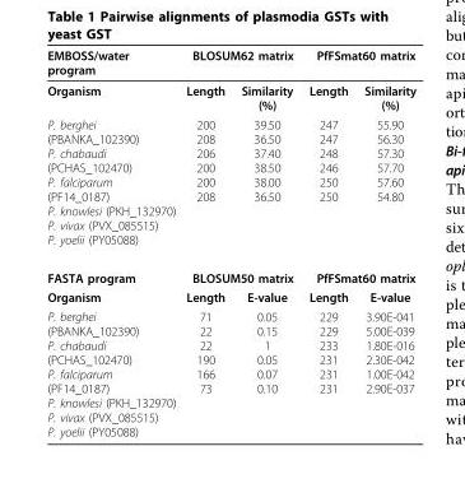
<table><thead><tr><td rowspan="2">EMBOSS/water program Organism</td><td colspan="2">BLOSUM62 matrix</td><td colspan="2">PfFSmat60 matrix</td></tr><tr><td>Length</td><td>Similarity (%)</td><td>Length</td><td>Similarity (%)</td></tr></thead><tbody><tr><td>P. berghei (PBANKA_102390) P. chabaudi (PCHAS_102470) P. falciparum (PF14_0187) P. knowlesi (PKH_132970) P. vivax (PVX_085515) P. yoelii (PY05088)</td><td>200 208 206 200 200 208</td><td>39.50 36.50 37.40 38.50 38.00 36.50</td><td>247 247 248 246 250 250</td><td>55.90 56.30 57.30 57.70 57.60 54.80</td></tr><tr><td>FASTA program</td><td colspan="2">BLOSUM50 matrix</td><td colspan="2">PfFSmat60 matrix</td></tr><tr><td>Organism</td><td>Length</td><td>E-value</td><td>Length</td><td>E-value</td></tr><tr><td>P. berghei (PBANKA_102390) P. chabaudi (PCHAS_102470) P. falciparum (PF14_0187) P. knowlesi (PKH_132970) P. vivax (PVX_085515) P. yoelii (PY05088)</td><td>71 22 22 190 166 73</td><td>0.05 0.15 1 0.05 0.07 0.10</td><td>229 229 233 231 231 231</td><td>3.90E-041 5.00E-039 1.80E-016 2.30E-042 1.00E-042 2.90E-037</td></tr></tbody></table>